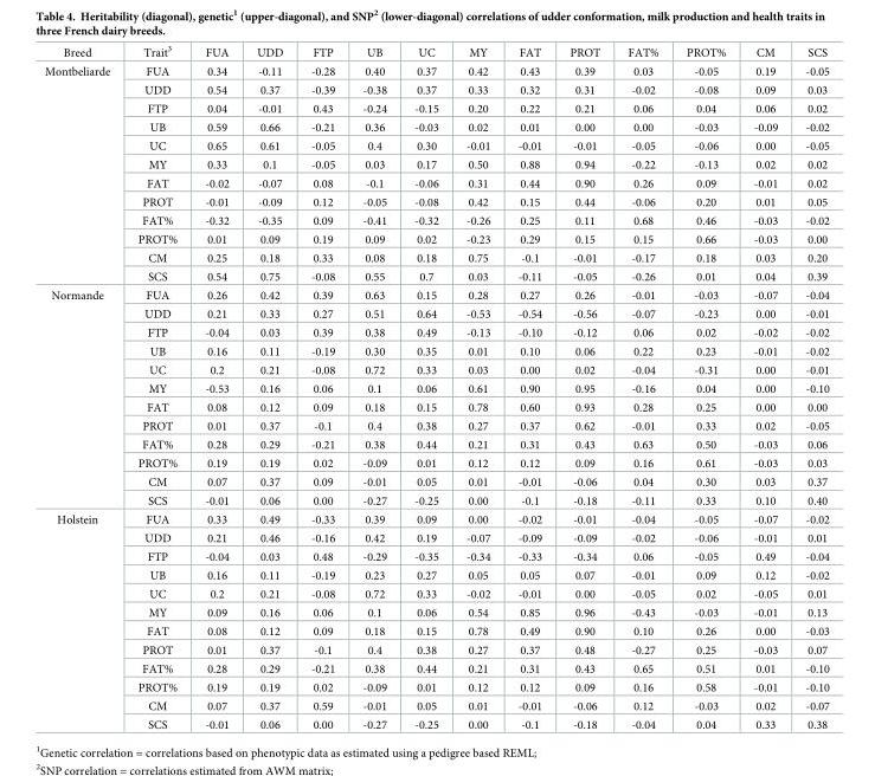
<table><tbody><tr><td>Breed</td><td>Trait<sup>3</sup></td><td>FUA</td><td>UDD</td><td>FTP</td><td>UB</td><td>UC</td><td>MY</td><td>FAT</td><td>PROT</td><td>FAT%</td><td>PROT%</td><td>CM</td><td>SCS</td></tr><tr><td rowspan="12">Montbeliarde</td><td>FUA</td><td>0.34</td><td>-0.11</td><td>-0.28</td><td>0.40</td><td>0.37</td><td>0.42</td><td>0.43</td><td>0.39</td><td>0.03</td><td>-0.05</td><td>0.19</td><td>-0.05</td></tr><tr><td>UDD</td><td>0.54</td><td>0.37</td><td>-0.39</td><td>-0.38</td><td>0.37</td><td>0.33</td><td>0.32</td><td>0.31</td><td>-0.02</td><td>-0.08</td><td>0.09</td><td>0.03</td></tr><tr><td>FTP</td><td>0.04</td><td>-0.01</td><td>0.43</td><td>-0.24</td><td>-0.15</td><td>0.20</td><td>0.22</td><td>0.21</td><td>0.06</td><td>0.04</td><td>0.06</td><td>0.02</td></tr><tr><td>UB</td><td>0.59</td><td>0.66</td><td>-0.21</td><td>0.36</td><td>-0.03</td><td>0.02</td><td>0.01</td><td>0.00</td><td>0.00</td><td>-0.03</td><td>-0.09</td><td>-0.02</td></tr><tr><td>UC</td><td>0.65</td><td>0.61</td><td>-0.05</td><td>0.4</td><td>0.30</td><td>-0.01</td><td>-0.01</td><td>-0.01</td><td>-0.05</td><td>-0.06</td><td>0.00</td><td>-0.05</td></tr><tr><td>MY</td><td>0.33</td><td>0.1</td><td>-0.05</td><td>0.03</td><td>0.17</td><td>0.50</td><td>0.88</td><td>0.94</td><td>-0.22</td><td>-0.13</td><td>0.02</td><td>0.02</td></tr><tr><td>FAT</td><td>-0.02</td><td>-0.07</td><td>0.08</td><td>-0.1</td><td>-0.06</td><td>0.31</td><td>0.44</td><td>0.90</td><td>0.26</td><td>0.09</td><td>-0.01</td><td>0.02</td></tr><tr><td>PROT</td><td>-0.01</td><td>-0.09</td><td>0.12</td><td>-0.05</td><td>-0.08</td><td>0.42</td><td>0.15</td><td>0.44</td><td>-0.06</td><td>0.20</td><td>0.01</td><td>0.05</td></tr><tr><td>FAT%</td><td>-0.32</td><td>-0.35</td><td>0.09</td><td>-0.41</td><td>-0.32</td><td>-0.26</td><td>0.25</td><td>0.11</td><td>0.68</td><td>0.46</td><td>-0.03</td><td>-0.02</td></tr><tr><td>PROT%</td><td>0.01</td><td>0.09</td><td>0.19</td><td>0.09</td><td>0.02</td><td>-0.23</td><td>0.29</td><td>0.15</td><td>0.15</td><td>0.66</td><td>-0.03</td><td>0.00</td></tr><tr><td>CM</td><td>0.25</td><td>0.18</td><td>0.33</td><td>0.08</td><td>0.18</td><td>0.75</td><td>-0.1</td><td>-0.01</td><td>-0.17</td><td>0.18</td><td>0.03</td><td>0.20</td></tr><tr><td>SCS</td><td>0.54</td><td>0.75</td><td>-0.08</td><td>0.55</td><td>0.7</td><td>0.03</td><td>-0.11</td><td>-0.05</td><td>-0.26</td><td>0.01</td><td>0.04</td><td>0.39</td></tr><tr><td rowspan="12">Normande</td><td>FUA</td><td>0.26</td><td>0.42</td><td>0.39</td><td>0.63</td><td>0.15</td><td>0.28</td><td>0.27</td><td>0.26</td><td>-0.01</td><td>-0.03</td><td>-0.07</td><td>-0.04</td></tr><tr><td>UDD</td><td>0.21</td><td>0.33</td><td>0.27</td><td>0.51</td><td>0.64</td><td>-0.53</td><td>-0.54</td><td>-0.56</td><td>-0.07</td><td>-0.23</td><td>0.00</td><td>-0.01</td></tr><tr><td>FTP</td><td>-0.04</td><td>0.03</td><td>0.39</td><td>0.38</td><td>0.49</td><td>-0.13</td><td>-0.10</td><td>-0.12</td><td>0.06</td><td>0.02</td><td>-0.02</td><td>-0.02</td></tr><tr><td>UB</td><td>0.16</td><td>0.11</td><td>-0.19</td><td>0.30</td><td>0.35</td><td>0.01</td><td>0.10</td><td>0.06</td><td>0.22</td><td>0.23</td><td>-0.01</td><td>-0.02</td></tr><tr><td>UC</td><td>0.2</td><td>0.21</td><td>-0.08</td><td>0.72</td><td>0.33</td><td>0.03</td><td>0.00</td><td>0.02</td><td>-0.04</td><td>-0.31</td><td>0.00</td><td>-0.01</td></tr><tr><td>MY</td><td>-0.53</td><td>0.16</td><td>0.06</td><td>0.1</td><td>0.06</td><td>0.61</td><td>0.90</td><td>0.95</td><td>-0.16</td><td>0.04</td><td>0.00</td><td>-0.10</td></tr><tr><td>FAT</td><td>0.08</td><td>0.12</td><td>0.09</td><td>0.18</td><td>0.15</td><td>0.78</td><td>0.60</td><td>0.93</td><td>0.28</td><td>0.25</td><td>0.00</td><td>0.00</td></tr><tr><td>PROT</td><td>0.01</td><td>0.37</td><td>-0.1</td><td>0.4</td><td>0.38</td><td>0.27</td><td>0.37</td><td>0.62</td><td>-0.01</td><td>0.33</td><td>0.02</td><td>-0.05</td></tr><tr><td>FAT%</td><td>0.28</td><td>0.29</td><td>-0.21</td><td>0.38</td><td>0.44</td><td>0.21</td><td>0.31</td><td>0.43</td><td>0.63</td><td>0.50</td><td>-0.03</td><td>0.06</td></tr><tr><td>PROT%</td><td>0.19</td><td>0.19</td><td>0.02</td><td>-0.09</td><td>0.01</td><td>0.12</td><td>0.12</td><td>0.09</td><td>0.16</td><td>0.61</td><td>-0.03</td><td>0.03</td></tr><tr><td>CM</td><td>0.07</td><td>0.37</td><td>0.09</td><td>-0.01</td><td>0.05</td><td>0.01</td><td>-0.01</td><td>-0.06</td><td>0.04</td><td>0.30</td><td>0.03</td><td>0.37</td></tr><tr><td>SCS</td><td>-0.01</td><td>0.06</td><td>0.00</td><td>-0.27</td><td>-0.25</td><td>0.00</td><td>-0.1</td><td>-0.18</td><td>-0.11</td><td>0.33</td><td>0.10</td><td>0.40</td></tr><tr><td rowspan="12">Holstein</td><td>FUA</td><td>0.33</td><td>0.49</td><td>-0.33</td><td>0.39</td><td>0.09</td><td>0.00</td><td>-0.02</td><td>-0.01</td><td>-0.04</td><td>-0.05</td><td>-0.07</td><td>-0.02</td></tr><tr><td>UDD</td><td>0.21</td><td>0.46</td><td>-0.16</td><td>0.42</td><td>0.19</td><td>-0.07</td><td>-0.09</td><td>-0.09</td><td>-0.02</td><td>-0.06</td><td>-0.01</td><td>0.01</td></tr><tr><td>FTP</td><td>-0.04</td><td>0.03</td><td>0.48</td><td>-0.29</td><td>-0.35</td><td>-0.34</td><td>-0.33</td><td>-0.34</td><td>0.06</td><td>-0.05</td><td>0.49</td><td>-0.04</td></tr><tr><td>UB</td><td>0.16</td><td>0.11</td><td>-0.19</td><td>0.23</td><td>0.27</td><td>0.05</td><td>0.05</td><td>0.07</td><td>-0.01</td><td>0.09</td><td>0.12</td><td>-0.02</td></tr><tr><td>UC</td><td>0.2</td><td>0.21</td><td>-0.08</td><td>0.72</td><td>0.33</td><td>-0.02</td><td>-0.01</td><td>0.00</td><td>-0.05</td><td>0.02</td><td>-0.05</td><td>0.01</td></tr><tr><td>MY</td><td>0.09</td><td>0.16</td><td>0.06</td><td>0.1</td><td>0.06</td><td>0.54</td><td>0.85</td><td>0.96</td><td>-0.43</td><td>-0.03</td><td>-0.01</td><td>0.13</td></tr><tr><td>FAT</td><td>0.08</td><td>0.12</td><td>0.09</td><td>0.18</td><td>0.15</td><td>0.78</td><td>0.49</td><td>0.90</td><td>0.10</td><td>0.26</td><td>0.00</td><td>-0.03</td></tr><tr><td>PROT</td><td>0.01</td><td>0.37</td><td>-0.1</td><td>0.4</td><td>0.38</td><td>0.27</td><td>0.37</td><td>0.48</td><td>-0.27</td><td>0.25</td><td>-0.03</td><td>0.07</td></tr><tr><td>FAT%</td><td>0.28</td><td>0.29</td><td>-0.21</td><td>0.38</td><td>0.44</td><td>0.21</td><td>0.31</td><td>0.43</td><td>0.65</td><td>0.51</td><td>0.01</td><td>-0.10</td></tr><tr><td>PROT%</td><td>0.19</td><td>0.19</td><td>0.02</td><td>-0.09</td><td>0.01</td><td>0.12</td><td>0.12</td><td>0.09</td><td>0.16</td><td>0.58</td><td>-0.01</td><td>-0.10</td></tr><tr><td>CM</td><td>0.07</td><td>0.37</td><td>0.59</td><td>-0.01</td><td>0.05</td><td>0.01</td><td>-0.01</td><td>-0.06</td><td>0.12</td><td>-0.03</td><td>0.02</td><td>-0.07</td></tr><tr><td>SCS</td><td>-0.01</td><td>0.06</td><td>0.00</td><td>-0.27</td><td>-0.25</td><td>0.00</td><td>-0.1</td><td>-0.18</td><td>-0.04</td><td>0.04</td><td>0.33</td><td>0.38</td></tr></tbody></table>